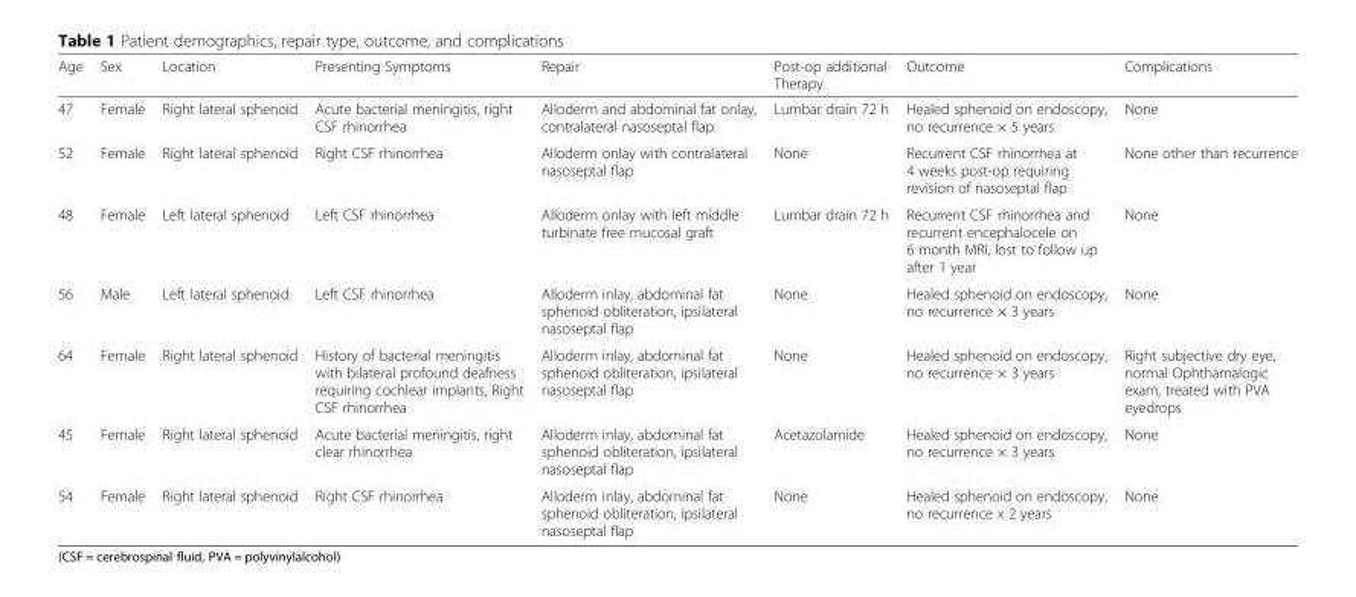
<table><thead><tr><td>Age</td><td>Sex</td><td>Location</td><td>Presenting Symptoms</td><td>Repair</td><td>Post-op additional Therapy</td><td>Outcome</td><td>Complications</td></tr></thead><tbody><tr><td>47</td><td>Female</td><td>Right lateral sphenoid</td><td>Acute bacterial meningitis, right CSF rhinorrhea</td><td>Alloderm and abdominal fat onlay, contralateral nasoseptal flap</td><td>Lumbar drain 72 h</td><td>Healed sphenoid on endoscopy, no recurrence × 5 years</td><td>None</td></tr><tr><td>52</td><td>Female</td><td>Right lateral sphenoid</td><td>Right CSF rhinorrhea</td><td>Alloderm onlay with contralateral nasoseptal flap</td><td>None</td><td>Recurrent CSF rhinorrhea at 4 weeks post-op requiring revision of nasoseptal flap</td><td>None other than recurrence</td></tr><tr><td>48</td><td>Female</td><td>Left lateral sphenoid</td><td>Left CSF rhinorrhea</td><td>Alloderm onlay with left middle turbinate free mucosal graft</td><td>Lumbar drain 72 h</td><td>Recurrent CSF rhinorrhea and recurrent encephalocele on 6 month MRI, lost to follow up after 1 year</td><td>None</td></tr><tr><td>56</td><td>Male</td><td>Left lateral sphenoid</td><td>Left CSF rhinorrhea</td><td>Alloderm inlay, abdominal fat sphenoid obliteration, ipsilateral nasoseptal flap</td><td>None</td><td>Healed sphenoid on endoscopy, no recurrence × 3 years</td><td>None</td></tr><tr><td>64</td><td>Female</td><td>Right lateral sphenoid</td><td>History of bacterial meningitis with bilateral profound deafness requiring cochlear implants, Right CSF rhinorrhea</td><td>Alloderm inlay, abdominal fat sphenoid obliteration, ipsilateral nasoseptal flap</td><td>None</td><td>Healed sphenoid on endoscopy, no recurrence × 3 years</td><td>Right subjective dry eye, normal Ophthamalogic exam, treated with PVA eyedrops</td></tr><tr><td>45</td><td>Female</td><td>Right lateral sphenoid</td><td>Acute bacterial meningitis, right clear rhinorrhea</td><td>Alloderm inlay, abdominal fat sphenoid obliteration, ipsilateral nasoseptal flap</td><td>Acetazolamide</td><td>Healed sphenoid on endoscopy, no recurrence × 3 years</td><td>None</td></tr><tr><td>54</td><td>Female</td><td>Right lateral sphenoid</td><td>Right CSF rhinorrhea</td><td>Alloderm inlay, abdominal fat sphenoid obliteration, ipsilateral nasoseptal flap</td><td>None</td><td>Healed sphenoid on endoscopy, no recurrence x 2 years</td><td>None</td></tr></tbody></table>